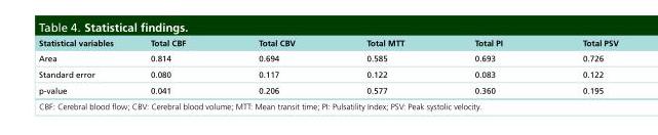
<table><thead><tr><td>Statistical variables</td><td>Total CBF</td><td>Total CBV</td><td>Total MTT</td><td>Total PI</td><td>Total PSV</td></tr></thead><tbody><tr><td>Area</td><td>0.814</td><td>0.694</td><td>0.585</td><td>0.693</td><td>0.726</td></tr><tr><td>Standard error</td><td>0.080</td><td>0.117</td><td>0.122</td><td>0.083</td><td>0.122</td></tr><tr><td>p-value</td><td>0.041</td><td>0.206</td><td>0.577</td><td>0.360</td><td>0.195</td></tr></tbody></table>